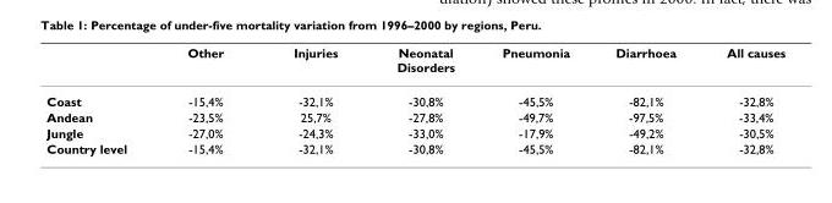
<table><thead><tr><td></td><td>Other</td><td>Injuries</td><td>Neonatal Disorders</td><td>Pneumonia</td><td>Diarrhoea</td><td>All causes</td></tr></thead><tbody><tr><td>Coast</td><td>-15,4%</td><td>-32,1%</td><td>-30,8%</td><td>-45,5%</td><td>-82,1%</td><td>-32,8%</td></tr><tr><td>Andean</td><td>-23,5%</td><td>25,7%</td><td>-27,8%</td><td>-49,7%</td><td>-97,5%</td><td>-33,4%</td></tr><tr><td>Jungle</td><td>-27,0%</td><td>-24,3%</td><td>-33,0%</td><td>-17,9%</td><td>-49,2%</td><td>-30,5%</td></tr><tr><td>Country level</td><td>-15,4%</td><td>-32,1%</td><td>-30,8%</td><td>-45,5%</td><td>-82,1%</td><td>-32,8%</td></tr></tbody></table>